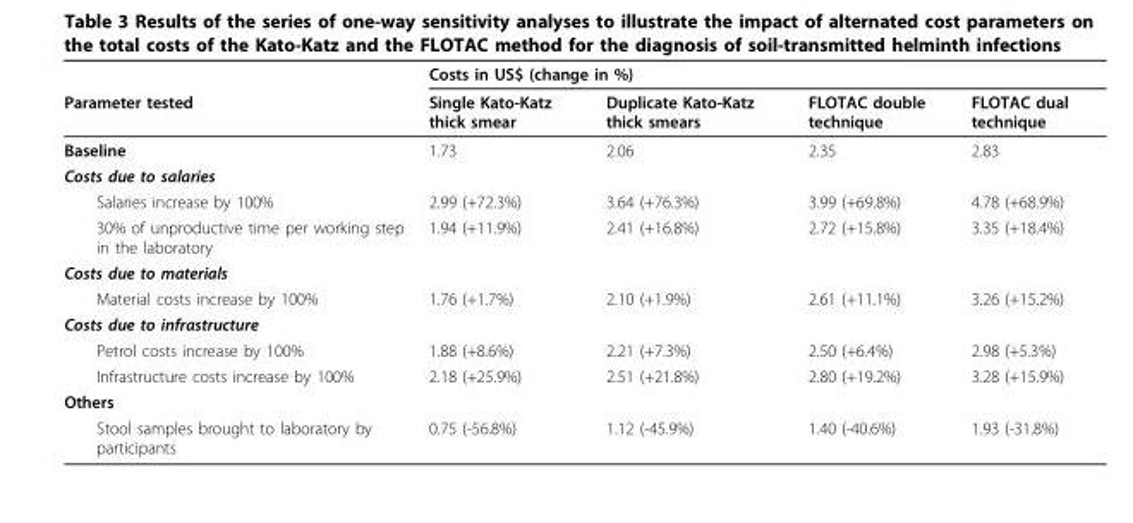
<table><thead><tr><td rowspan="2">Parameter tested</td><td colspan="4">Costs in US$ (change in %)</td></tr><tr><td>Single Kato-Katz thick smear</td><td>Duplicate Kato-Katz thick smears</td><td>FLOTAC double technique</td><td>FLOTAC dual technique</td></tr></thead><tbody><tr><td>Baseline</td><td>1.73</td><td>2.06</td><td>2.35</td><td>2.83</td></tr><tr><td colspan="5">Costs due to salaries</td></tr><tr><td>Salaries increase by 100%</td><td>2.99 (+72.3%)</td><td>3.64 (+76.3%)</td><td>3.99 (+69.8%)</td><td>4.78 (+68.9%)</td></tr><tr><td>30% of unproductive time per working step in the laboratory</td><td>1.94 (+11.9%)</td><td>2.41 (+16.8%)</td><td>2.72 (+15.8%)</td><td>3.35 (+18.4%)</td></tr><tr><td colspan="5">Costs due to materials</td></tr><tr><td>Material costs increase by 100%</td><td>1.76 (+1.7%)</td><td>2.10 (+1.9%)</td><td>2.61 (+11.1%)</td><td>3.26 (+15.2%)</td></tr><tr><td colspan="5">Costs due to infrastructure</td></tr><tr><td>Petrol costs increase by 100%</td><td>1.88 (+8.6%)</td><td>2.21 (+7.3%)</td><td>2.50 (+6.4%)</td><td>2.98 (+5.3%)</td></tr><tr><td>Infrastructure costs increase by 100%</td><td>2.18 (+25.9%)</td><td>2.51 (+21.8%)</td><td>2.80 (+19.2%)</td><td>3.28 (+15.9%)</td></tr><tr><td colspan="5">Others</td></tr><tr><td>Stool samples brought to laboratory by participants</td><td>0.75 (-56.8%)</td><td>1.12 (-45.9%)</td><td>1.40 (-40.6%)</td><td>1.93 (-31.8%)</td></tr></tbody></table>